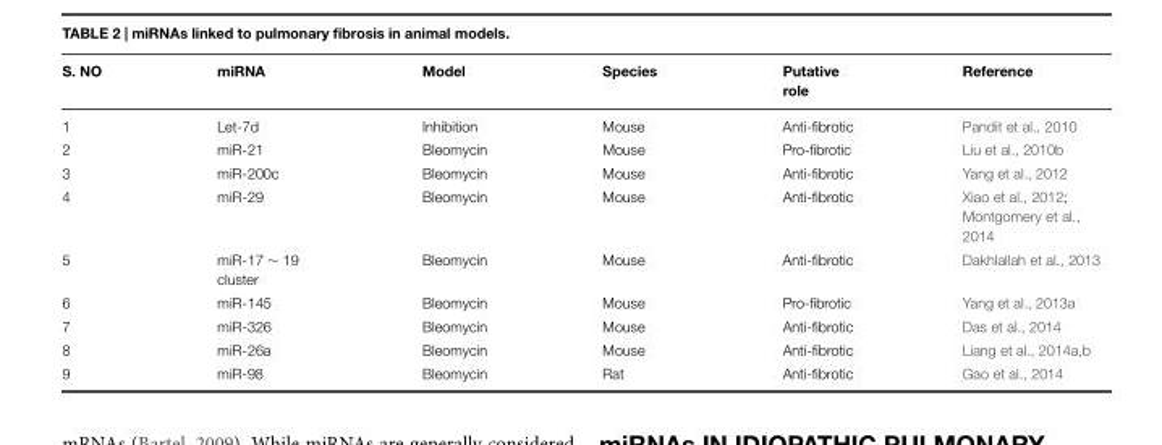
<table><thead><tr><td>S. NO</td><td>miRNA</td><td>Model</td><td>Species</td><td>Putative role</td><td>Reference</td></tr></thead><tbody><tr><td>1</td><td>Let-7d</td><td>Inhibition</td><td>Mouse</td><td>Anti-fibrotic</td><td>Pandit et al., 2010</td></tr><tr><td>2</td><td>miR-21</td><td>Bleomycin</td><td>Mouse</td><td>Pro-fibrotic</td><td>Liu et al., 2010b</td></tr><tr><td>3</td><td>miR-200c</td><td>Bleomycin</td><td>Mouse</td><td>Anti-fibrotic</td><td>Yang et al., 2012</td></tr><tr><td>4</td><td>miR-29</td><td>Bleomycin</td><td>Mouse</td><td>Anti-fibrotic</td><td>Xiao et al., 2012; Montgomery et al., 2014</td></tr><tr><td>5</td><td>miR-17 ∼ 19 cluster</td><td>Bleomycin</td><td>Mouse</td><td>Anti-fibrotic</td><td>Dakhlallah et al., 2013</td></tr><tr><td>6</td><td>miR-145</td><td>Bleomycin</td><td>Mouse</td><td>Pro-fibrotic</td><td>Yang et al., 2013a</td></tr><tr><td>7</td><td>miR-326</td><td>Bleomycin</td><td>Mouse</td><td>Anti-fibrotic</td><td>Das et al., 2014</td></tr><tr><td>8</td><td>miR-26a</td><td>Bleomycin</td><td>Mouse</td><td>Anti-fibrotic</td><td>Liang et al., 2014a,b</td></tr><tr><td>9</td><td>miR-98</td><td>Bleomycin</td><td>Rat</td><td>Anti-fibrotic</td><td>Gao et al., 2014</td></tr></tbody></table>